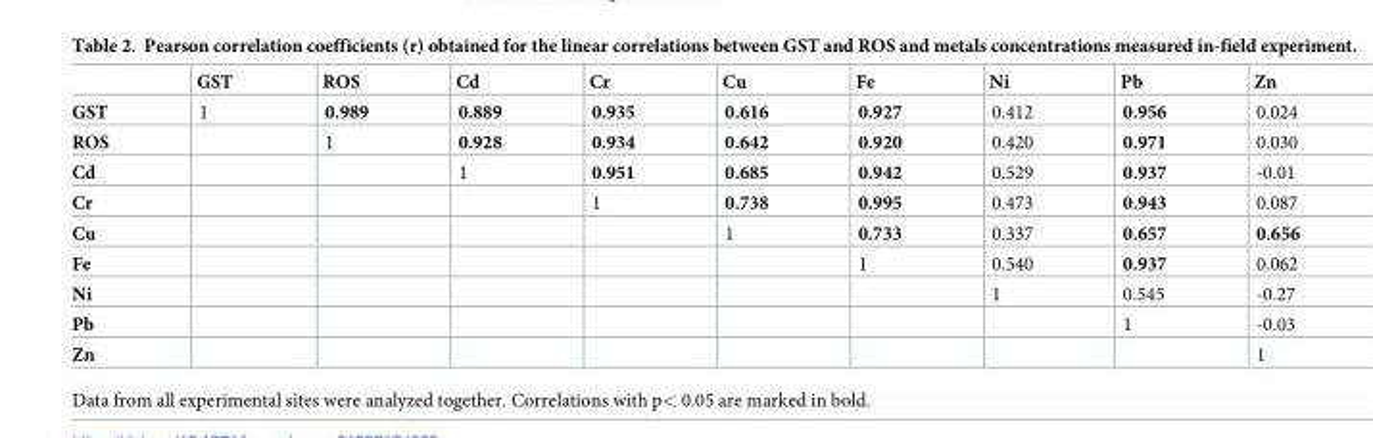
<table><thead><tr><td></td><td>GST</td><td>ROS</td><td>Cd</td><td>Cr</td><td>Cu</td><td>Fe</td><td>Ni</td><td>Pb</td><td>Zn</td></tr></thead><tbody><tr><td>GST</td><td>1</td><td>0.989</td><td>0.889</td><td>0.935</td><td>0.616</td><td>0.927</td><td>0.412</td><td>0.956</td><td>0.024</td></tr><tr><td>ROS</td><td></td><td>1</td><td>0.928</td><td>0.934</td><td>0.642</td><td>0.920</td><td>0.420</td><td>0.971</td><td>0.030</td></tr><tr><td>Cd</td><td></td><td></td><td>1</td><td>0.951</td><td>0.685</td><td>0.942</td><td>0.529</td><td>0.937</td><td>-0.01</td></tr><tr><td>Cr</td><td></td><td></td><td></td><td>1</td><td>0.738</td><td>0.995</td><td>0.473</td><td>0.943</td><td>0.087</td></tr><tr><td>Cu</td><td></td><td></td><td></td><td></td><td>1</td><td>0.733</td><td>0.337</td><td>0.657</td><td>0.656</td></tr><tr><td>Fe</td><td></td><td></td><td></td><td></td><td></td><td>1</td><td>0.540</td><td>0.937</td><td>0.062</td></tr><tr><td>Ni</td><td></td><td></td><td></td><td></td><td></td><td></td><td>1</td><td>0.545</td><td>-0.27</td></tr><tr><td>Pb</td><td></td><td></td><td></td><td></td><td></td><td></td><td></td><td>1</td><td>-0.03</td></tr><tr><td>Zn</td><td></td><td></td><td></td><td></td><td></td><td></td><td></td><td></td><td>1</td></tr></tbody></table>